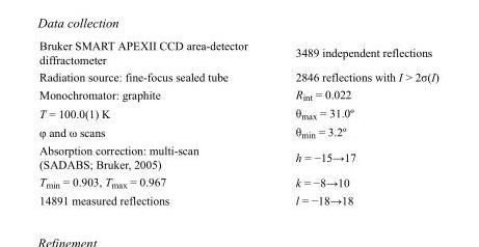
<table><tbody><tr><td>Bruker SMART APEXII CCD area-detector diffractometer</td><td>3489 independent reflections</td></tr><tr><td>Radiation source: fine-focus sealed tube</td><td>2846 reflections with I &gt; 2σ(I)</td></tr><tr><td>Monochromator: graphite</td><td>R<sub>int</sub> = 0.022</td></tr><tr><td>T = 100.0(1) K</td><td>θ<sub>max</sub> = 31.0º</td></tr><tr><td>φ and ω scans</td><td>θ<sub>min</sub> = 3.2º</td></tr><tr><td>Absorption correction: multi-scan (SADABS; Bruker, 2005)</td><td>h = −15→17</td></tr><tr><td>T<sub>min</sub> = 0.903, T<sub>max</sub> = 0.967</td><td>k = −8→10</td></tr><tr><td>14891 measured reflections</td><td>l = −18→18</td></tr></tbody></table>